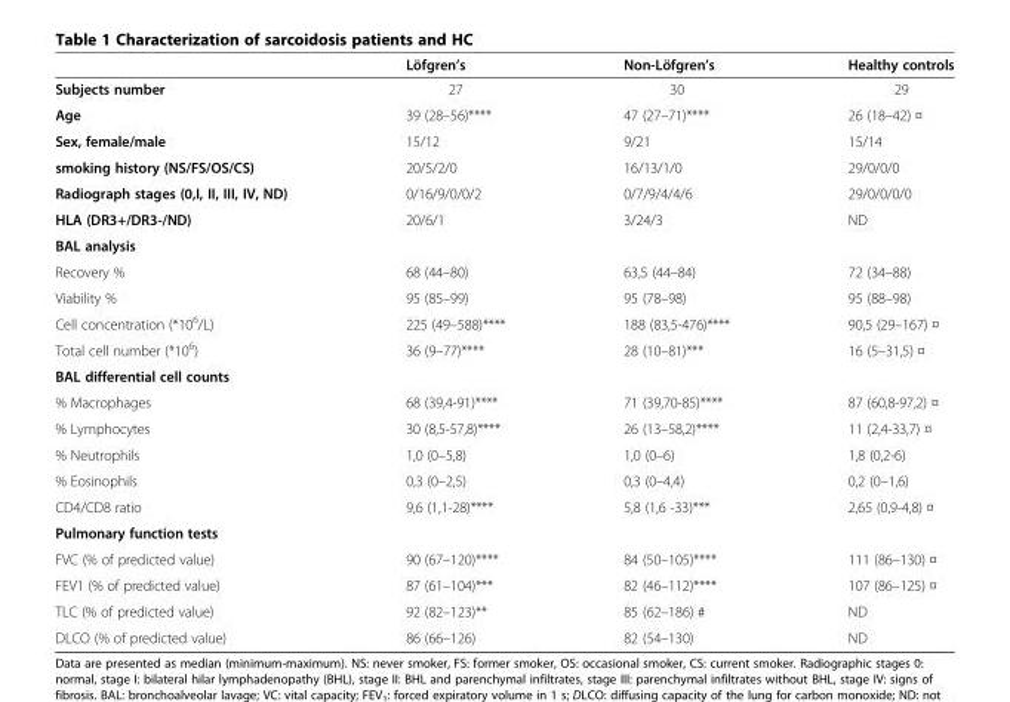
<table><thead><tr><td></td><td>Löfgren’s</td><td>Non-Löfgren’s</td><td>Healthy controls</td></tr></thead><tbody><tr><td>Subjects number</td><td>27</td><td>30</td><td>29</td></tr><tr><td>Age</td><td>39 (28–56)****</td><td>47 (27–71)****</td><td>26 (18–42) ¤</td></tr><tr><td>Sex, female/male</td><td>15/12</td><td>9/21</td><td>15/14</td></tr><tr><td>smoking history (NS/FS/OS/CS)</td><td>20/5/2/0</td><td>16/13/1/0</td><td>29/0/0/0</td></tr><tr><td>Radiograph stages (0,I, II, III, IV, ND)</td><td>0/16/9/0/0/2</td><td>0/7/9/4/4/6</td><td>29/0/0/0/0</td></tr><tr><td>HLA (DR3+/DR3-/ND)</td><td>20/6/1</td><td>3/24/3</td><td>ND</td></tr><tr><td colspan="4">BAL analysis</td></tr><tr><td>Recovery %</td><td>68 (44–80)</td><td>63,5 (44–84)</td><td>72 (34–88)</td></tr><tr><td>Viability %</td><td>95 (85–99)</td><td>95 (78–98)</td><td>95 (88–98)</td></tr><tr><td>Cell concentration (*10<sup>6</sup>/L)</td><td>225 (49–588)****</td><td>188 (83,5-476)****</td><td>90,5 (29–167) ¤</td></tr><tr><td>Total cell number (*10<sup>6</sup>)</td><td>36 (9–77)****</td><td>28 (10–81)***</td><td>16 (5–31,5) ¤</td></tr><tr><td colspan="4">BAL differential cell counts</td></tr><tr><td>% Macrophages</td><td>68 (39,4-91)****</td><td>71 (39,70-85)****</td><td>87 (60,8-97,2) ¤</td></tr><tr><td>% Lymphocytes</td><td>30 (8,5-57,8)****</td><td>26 (13–58,2)****</td><td>11 (2,4-33,7) ¤</td></tr><tr><td>% Neutrophils</td><td>1,0 (0–5,8)</td><td>1,0 (0–6)</td><td>1,8 (0,2-6)</td></tr><tr><td>% Eosinophils</td><td>0,3 (0–2,5)</td><td>0,3 (0–4,4)</td><td>0,2 (0–1,6)</td></tr><tr><td>CD4/CD8 ratio</td><td>9,6 (1,1-28)****</td><td>5,8 (1,6 -33)***</td><td>2,65 (0,9-4,8) ¤</td></tr><tr><td colspan="4">Pulmonary function tests</td></tr><tr><td>FVC (% of predicted value)</td><td>90 (67–120)****</td><td>84 (50–105)****</td><td>111 (86–130) ¤</td></tr><tr><td>FEV1 (% of predicted value)</td><td>87 (61–104)***</td><td>82 (46–112)****</td><td>107 (86–125) ¤</td></tr><tr><td>TLC (% of predicted value)</td><td>92 (82–123)**</td><td>85 (62–186) #</td><td>ND</td></tr><tr><td>DLCO (% of predicted value)</td><td>86 (66–126)</td><td>82 (54–130)</td><td>ND</td></tr></tbody></table>